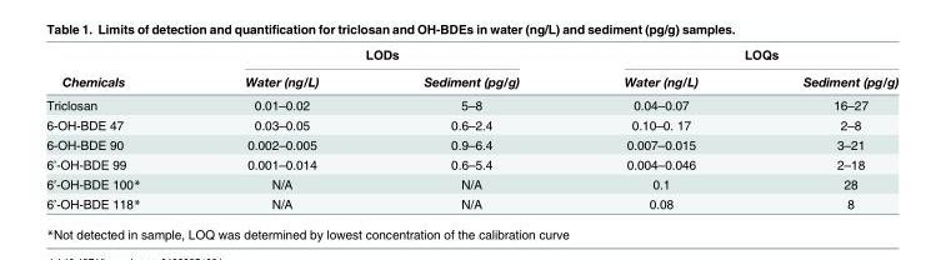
<table><thead><tr><td rowspan="2">Chemicals</td><td colspan="2">LODs</td><td colspan="2">LOQs</td></tr><tr><td>Water (ng/L)</td><td>Sediment (pg/g)</td><td>Water (ng/L)</td><td>Sediment (pg/g)</td></tr></thead><tbody><tr><td>Triclosan</td><td>0.01–0.02</td><td>5–8</td><td>0.04–0.07</td><td>16–27</td></tr><tr><td>6-OH-BDE 47</td><td>0.03–0.05</td><td>0.6–2.4</td><td>0.10–0. 17</td><td>2–8</td></tr><tr><td>6-OH-BDE 90</td><td>0.002–0.005</td><td>0.9–6.4</td><td>0.007–0.015</td><td>3–21</td></tr><tr><td>6’-OH-BDE 99</td><td>0.001–0.014</td><td>0.6–5.4</td><td>0.004–0.046</td><td>2–18</td></tr><tr><td>6’-OH-BDE 100*</td><td>N/A</td><td>N/A</td><td>0.1</td><td>28</td></tr><tr><td>6’-OH-BDE 118*</td><td>N/A</td><td>N/A</td><td>0.08</td><td>8</td></tr></tbody></table>